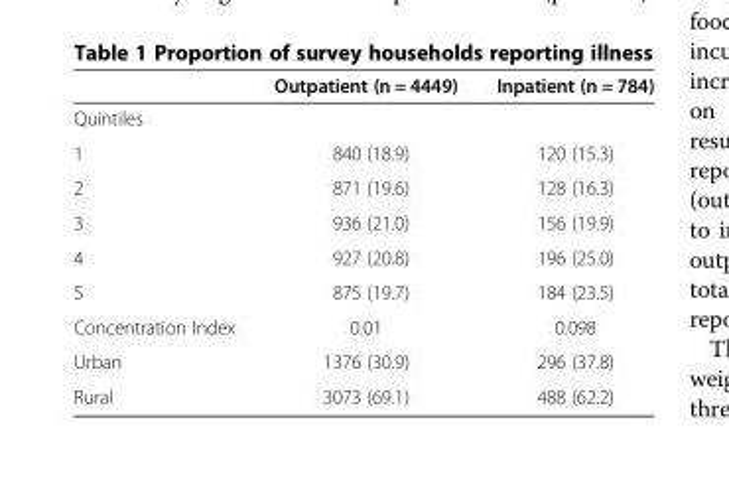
<table><thead><tr><td></td><td>Outpatient (n = 4449)</td><td>Inpatient (n = 784)</td></tr></thead><tbody><tr><td colspan="3">Quintiles</td></tr><tr><td>1</td><td>840 (18.9)</td><td>120 (15.3)</td></tr><tr><td>2</td><td>871 (19.6)</td><td>128 (16.3)</td></tr><tr><td>3</td><td>936 (21.0)</td><td>156 (19.9)</td></tr><tr><td>4</td><td>927 (20.8)</td><td>196 (25.0)</td></tr><tr><td>5</td><td>875 (19.7)</td><td>184 (23.5)</td></tr><tr><td>Concentration Index</td><td>0.01</td><td>0.098</td></tr><tr><td>Urban</td><td>1376 (30.9)</td><td>296 (37.8)</td></tr><tr><td>Rural</td><td>3073 (69.1)</td><td>488 (62.2)</td></tr></tbody></table>